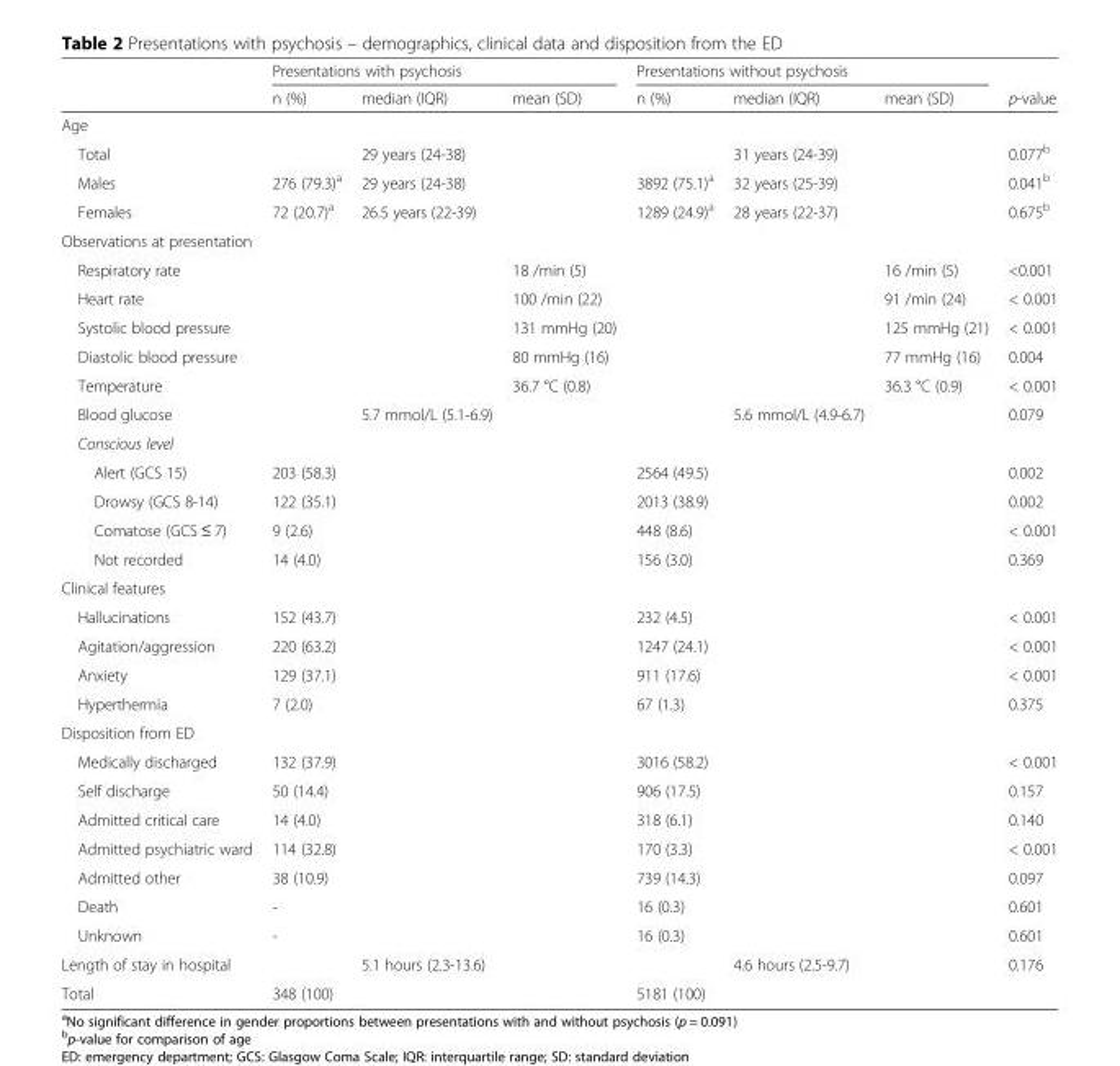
<table><thead><tr><td rowspan="2"></td><td colspan="3">Presentations with psychosis</td><td colspan="3">Presentations without psychosis</td><td rowspan="2">p-value</td></tr><tr><td>n (%)</td><td>median (IQR)</td><td>mean (SD)</td><td>n (%)</td><td>median (IQR)</td><td>mean (SD)</td></tr></thead><tbody><tr><td colspan="8">Age</td></tr><tr><td>Total</td><td></td><td>29 years (24-38)</td><td></td><td></td><td>31 years (24-39)</td><td></td><td>0.077<sup>b</sup></td></tr><tr><td>Males</td><td>276 (79.3)<sup>a</sup></td><td>29 years (24-38)</td><td></td><td>3892 (75.1)<sup>a</sup></td><td>32 years (25-39)</td><td></td><td>0.041<sup>b</sup></td></tr><tr><td>Females</td><td>72 (20.7)<sup>a</sup></td><td>26.5 years (22-39)</td><td></td><td>1289 (24.9)<sup>a</sup></td><td>28 years (22-37)</td><td></td><td>0.675<sup>b</sup></td></tr><tr><td colspan="8">Observations at presentation</td></tr><tr><td>Respiratory rate</td><td></td><td></td><td>18 /min (5)</td><td></td><td></td><td>16 /min (5)</td><td>&lt;0.001</td></tr><tr><td>Heart rate</td><td></td><td></td><td>100 /min (22)</td><td></td><td></td><td>91 /min (24)</td><td>&lt; 0.001</td></tr><tr><td>Systolic blood pressure</td><td></td><td></td><td>131 mmHg (20)</td><td></td><td></td><td>125 mmHg (21)</td><td>&lt; 0.001</td></tr><tr><td>Diastolic blood pressure</td><td></td><td></td><td>80 mmHg (16)</td><td></td><td></td><td>77 mmHg (16)</td><td>0.004</td></tr><tr><td>Temperature</td><td></td><td></td><td>36.7 °C (0.8)</td><td></td><td></td><td>36.3 °C (0.9)</td><td>&lt; 0.001</td></tr><tr><td>Blood glucose</td><td></td><td>5.7 mmol/L (5.1-6.9)</td><td></td><td></td><td>5.6 mmol/L (4.9-6.7)</td><td></td><td>0.079</td></tr><tr><td colspan="8">Conscious level</td></tr><tr><td>Alert (GCS 15)</td><td>203 (58.3)</td><td></td><td></td><td>2564 (49.5)</td><td></td><td></td><td>0.002</td></tr><tr><td>Drowsy (GCS 8-14)</td><td>122 (35.1)</td><td></td><td></td><td>2013 (38.9)</td><td></td><td></td><td>0.002</td></tr><tr><td>Comatose (GCS ≤ 7)</td><td>9 (2.6)</td><td></td><td></td><td>448 (8.6)</td><td></td><td></td><td>&lt; 0.001</td></tr><tr><td>Not recorded</td><td>14 (4.0)</td><td></td><td></td><td>156 (3.0)</td><td></td><td></td><td>0.369</td></tr><tr><td colspan="8">Clinical features</td></tr><tr><td>Hallucinations</td><td>152 (43.7)</td><td></td><td></td><td>232 (4.5)</td><td></td><td></td><td>&lt; 0.001</td></tr><tr><td>Agitation/aggression</td><td>220 (63.2)</td><td></td><td></td><td>1247 (24.1)</td><td></td><td></td><td>&lt; 0.001</td></tr><tr><td>Anxiety</td><td>129 (37.1)</td><td></td><td></td><td>911 (17.6)</td><td></td><td></td><td>&lt; 0.001</td></tr><tr><td>Hyperthermia</td><td>7 (2.0)</td><td></td><td></td><td>67 (1.3)</td><td></td><td></td><td>0.375</td></tr><tr><td colspan="8">Disposition from ED</td></tr><tr><td>Medically discharged</td><td>132 (37.9)</td><td></td><td></td><td>3016 (58.2)</td><td></td><td></td><td>&lt; 0.001</td></tr><tr><td>Self discharge</td><td>50 (14.4)</td><td></td><td></td><td>906 (17.5)</td><td></td><td></td><td>0.157</td></tr><tr><td>Admitted critical care</td><td>14 (4.0)</td><td></td><td></td><td>318 (6.1)</td><td></td><td></td><td>0.140</td></tr><tr><td>Admitted psychiatric ward</td><td>114 (32.8)</td><td></td><td></td><td>170 (3.3)</td><td></td><td></td><td>&lt; 0.001</td></tr><tr><td>Admitted other</td><td>38 (10.9)</td><td></td><td></td><td>739 (14.3)</td><td></td><td></td><td>0.097</td></tr><tr><td>Death</td><td>-</td><td></td><td></td><td>16 (0.3)</td><td></td><td></td><td>0.601</td></tr><tr><td>Unknown</td><td>-</td><td></td><td></td><td>16 (0.3)</td><td></td><td></td><td>0.601</td></tr><tr><td>Length of stay in hospital</td><td></td><td>5.1 hours (2.3-13.6)</td><td></td><td></td><td>4.6 hours (2.5-9.7)</td><td></td><td>0.176</td></tr><tr><td>Total</td><td>348 (100)</td><td></td><td></td><td>5181 (100)</td><td></td><td></td><td></td></tr></tbody></table>